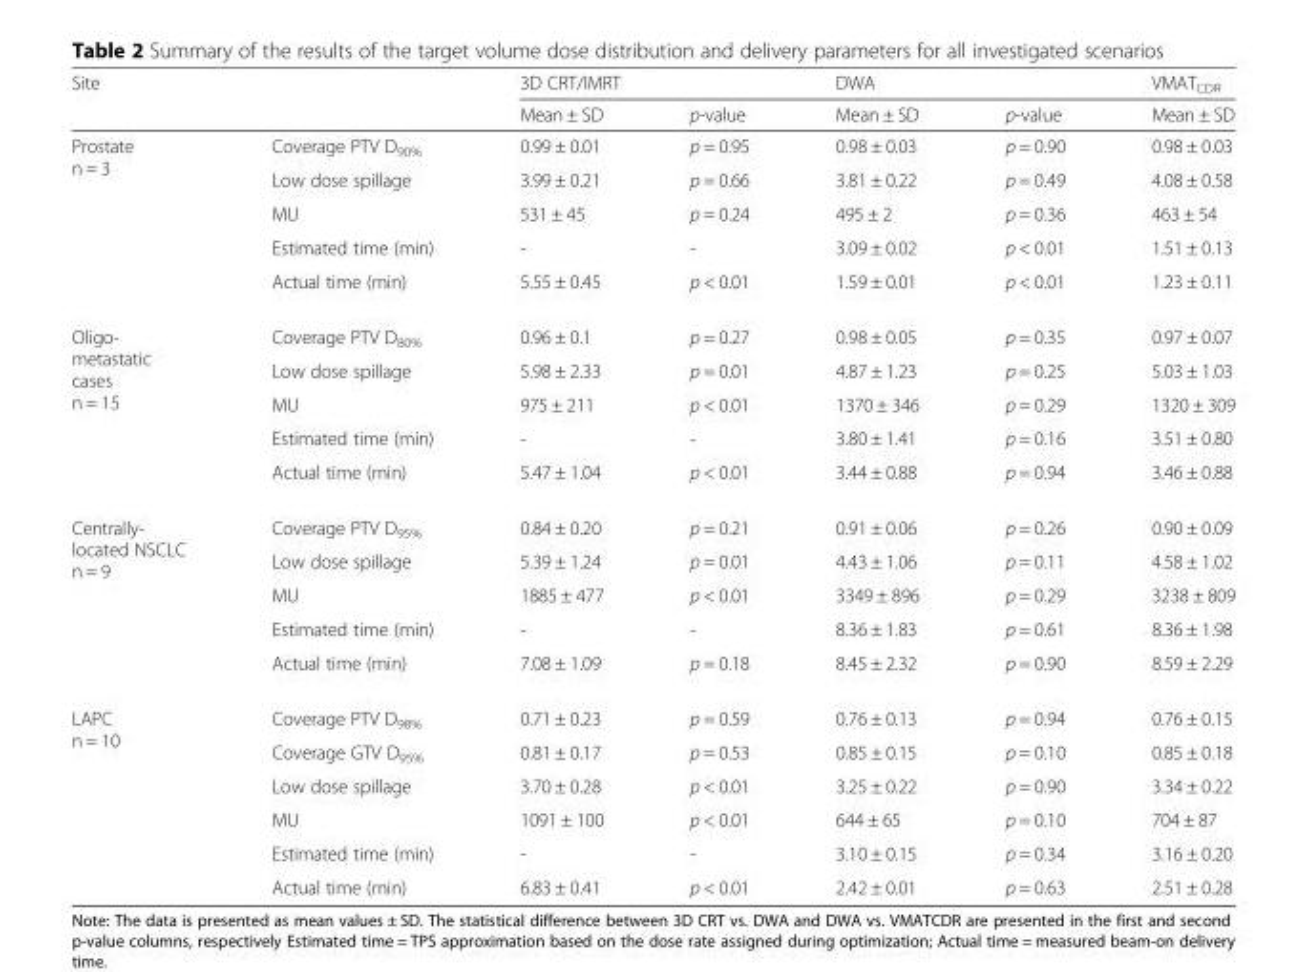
<table><thead><tr><td rowspan="2">Site</td><td rowspan="2"></td><td colspan="2">3D CRT/IMRT</td><td rowspan="2">DWA Mean ± SD</td><td rowspan="2">p-value</td><td rowspan="2">VMAT<sub>CDR</sub> Mean ± SD</td></tr><tr><td>Mean ± SD</td><td>p-value</td></tr></thead><tbody><tr><td rowspan="5">Prostate n = 3</td><td>Coverage PTV D<sub>90%</sub></td><td>0.99 ± 0.01</td><td>p = 0.95</td><td>0.98 ± 0.03</td><td>p = 0.90</td><td>0.98 ± 0.03</td></tr><tr><td>Low dose spillage</td><td>3.99 ± 0.21</td><td>p = 0.66</td><td>3.81 ± 0.22</td><td>p = 0.49</td><td>4.08 ± 0.58</td></tr><tr><td>MU</td><td>531 ± 45</td><td>p = 0.24</td><td>495 ± 2</td><td>p = 0.36</td><td>463 ± 54</td></tr><tr><td>Estimated time (min)</td><td>-</td><td>-</td><td>3.09 ± 0.02</td><td>p &lt; 0.01</td><td>1.51 ± 0.13</td></tr><tr><td>Actual time (min)</td><td>5.55 ± 0.45</td><td>p &lt; 0.01</td><td>1.59 ± 0.01</td><td>p &lt; 0.01</td><td>1.23 ± 0.11</td></tr><tr><td rowspan="5">Oligo- metastatic cases n = 15</td><td>Coverage PTV D<sub>80%</sub></td><td>0.96 ± 0.1</td><td>p = 0.27</td><td>0.98 ± 0.05</td><td>p = 0.35</td><td>0.97 ± 0.07</td></tr><tr><td>Low dose spillage</td><td>5.98 ± 2.33</td><td>p = 0.01</td><td>4.87 ± 1.23</td><td>p = 0.25</td><td>5.03 ± 1.03</td></tr><tr><td>MU</td><td>975 ± 211</td><td>p &lt; 0.01</td><td>1370 ± 346</td><td>p = 0.29</td><td>1320 ± 309</td></tr><tr><td>Estimated time (min)</td><td>-</td><td>-</td><td>3.80 ± 1.41</td><td>p = 0.16</td><td>3.51 ± 0.80</td></tr><tr><td>Actual time (min)</td><td>5.47 ± 1.04</td><td>p &lt; 0.01</td><td>3.44 ± 0.88</td><td>p = 0.94</td><td>3.46 ± 0.88</td></tr><tr><td rowspan="5">Centrally- located NSCLC n = 9</td><td>Coverage PTV D<sub>95%</sub></td><td>0.84 ± 0.20</td><td>p = 0.21</td><td>0.91 ± 0.06</td><td>p = 0.26</td><td>0.90 ± 0.09</td></tr><tr><td>Low dose spillage</td><td>5.39 ± 1.24</td><td>p = 0.01</td><td>4.43 ± 1.06</td><td>p = 0.11</td><td>4.58 ± 1.02</td></tr><tr><td>MU</td><td>1885 ± 477</td><td>p &lt; 0.01</td><td>3349 ± 896</td><td>p = 0.29</td><td>3238 ± 809</td></tr><tr><td>Estimated time (min)</td><td>-</td><td>-</td><td>8.36 ± 1.83</td><td>p = 0.61</td><td>8.36 ± 1.98</td></tr><tr><td>Actual time (min)</td><td>7.08 ± 1.09</td><td>p = 0.18</td><td>8.45 ± 2.32</td><td>p = 0.90</td><td>8.59 ± 2.29</td></tr><tr><td rowspan="6">LAPC n = 10</td><td>Coverage PTV D<sub>98%</sub></td><td>0.71 ± 0.23</td><td>p = 0.59</td><td>0.76 ± 0.13</td><td>p = 0.94</td><td>0.76 ± 0.15</td></tr><tr><td>Coverage GTV D<sub>95%</sub></td><td>0.81 ± 0.17</td><td>p = 0.53</td><td>0.85 ± 0.15</td><td>p = 0.10</td><td>0.85 ± 0.18</td></tr><tr><td>Low dose spillage</td><td>3.70 ± 0.28</td><td>p &lt; 0.01</td><td>3.25 ± 0.22</td><td>p = 0.90</td><td>3.34 ± 0.22</td></tr><tr><td>MU</td><td>1091 ± 100</td><td>p &lt; 0.01</td><td>644 ± 65</td><td>p = 0.10</td><td>704 ± 87</td></tr><tr><td>Estimated time (min)</td><td>-</td><td>-</td><td>3.10 ± 0.15</td><td>p = 0.34</td><td>3.16 ± 0.20</td></tr><tr><td>Actual time (min)</td><td>6.83 ± 0.41</td><td>p &lt; 0.01</td><td>2.42 ± 0.01</td><td>p = 0.63</td><td>2.51 ± 0.28</td></tr></tbody></table>